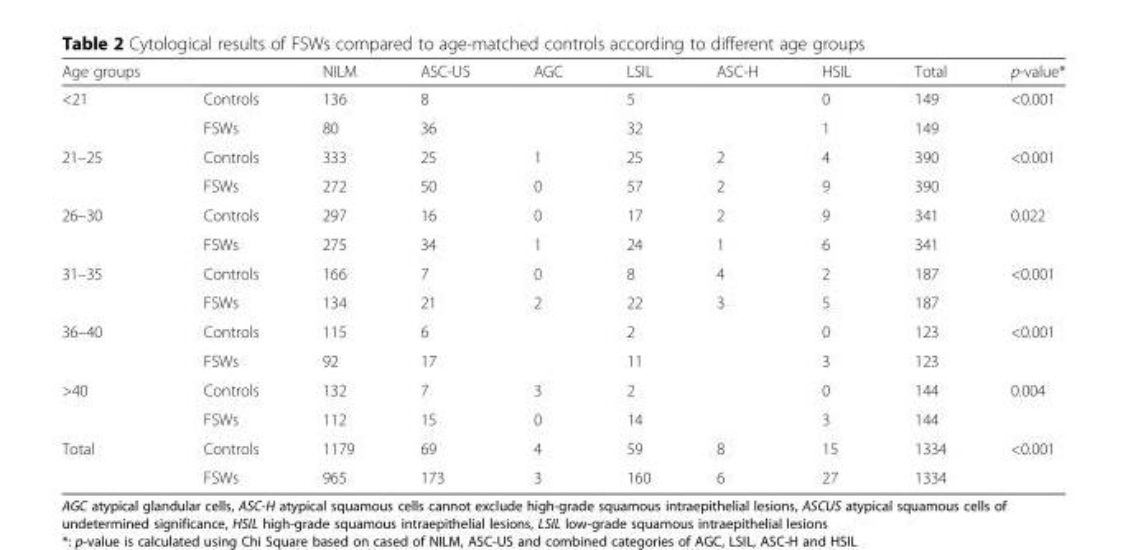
<table><thead><tr><td>Age groups</td><td></td><td>NILM</td><td>ASC-US</td><td>AGC</td><td>LSIL</td><td>ASC-H</td><td>HSIL</td><td>Total</td><td>p-value*</td></tr></thead><tbody><tr><td rowspan="2">&lt;21</td><td>Controls</td><td>136</td><td>8</td><td></td><td>5</td><td></td><td>0</td><td>149</td><td rowspan="2">&lt;0.001</td></tr><tr><td>FSWs</td><td>80</td><td>36</td><td></td><td>32</td><td></td><td>1</td><td>149</td></tr><tr><td rowspan="2">21–25</td><td>Controls</td><td>333</td><td>25</td><td>1</td><td>25</td><td>2</td><td>4</td><td>390</td><td rowspan="2">&lt;0.001</td></tr><tr><td>FSWs</td><td>272</td><td>50</td><td>0</td><td>57</td><td>2</td><td>9</td><td>390</td></tr><tr><td rowspan="2">26–30</td><td>Controls</td><td>297</td><td>16</td><td>0</td><td>17</td><td>2</td><td>9</td><td>341</td><td rowspan="2">0.022</td></tr><tr><td>FSWs</td><td>275</td><td>34</td><td>1</td><td>24</td><td>1</td><td>6</td><td>341</td></tr><tr><td rowspan="2">31–35</td><td>Controls</td><td>166</td><td>7</td><td>0</td><td>8</td><td>4</td><td>2</td><td>187</td><td rowspan="2">&lt;0.001</td></tr><tr><td>FSWs</td><td>134</td><td>21</td><td>2</td><td>22</td><td>3</td><td>5</td><td>187</td></tr><tr><td rowspan="2">36–40</td><td>Controls</td><td>115</td><td>6</td><td></td><td>2</td><td></td><td>0</td><td>123</td><td rowspan="2">&lt;0.001</td></tr><tr><td>FSWs</td><td>92</td><td>17</td><td></td><td>11</td><td></td><td>3</td><td>123</td></tr><tr><td rowspan="2">&gt;40</td><td>Controls</td><td>132</td><td>7</td><td>3</td><td>2</td><td></td><td>0</td><td>144</td><td rowspan="2">0.004</td></tr><tr><td>FSWs</td><td>112</td><td>15</td><td>0</td><td>14</td><td></td><td>3</td><td>144</td></tr><tr><td rowspan="2">Total</td><td>Controls</td><td>1179</td><td>69</td><td>4</td><td>59</td><td>8</td><td>15</td><td>1334</td><td rowspan="2">&lt;0.001</td></tr><tr><td>FSWs</td><td>965</td><td>173</td><td>3</td><td>160</td><td>6</td><td>27</td><td>1334</td></tr></tbody></table>